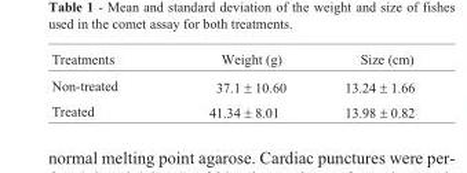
<table><thead><tr><td>Treatments</td><td>Weight (g)</td><td>Size (cm)</td></tr></thead><tbody><tr><td>Non-treated</td><td>37.1 ± 10.60</td><td>13.24 ± 1.66</td></tr><tr><td>Treated</td><td>41.34 ± 8.01</td><td>13.98 ± 0.82</td></tr></tbody></table>